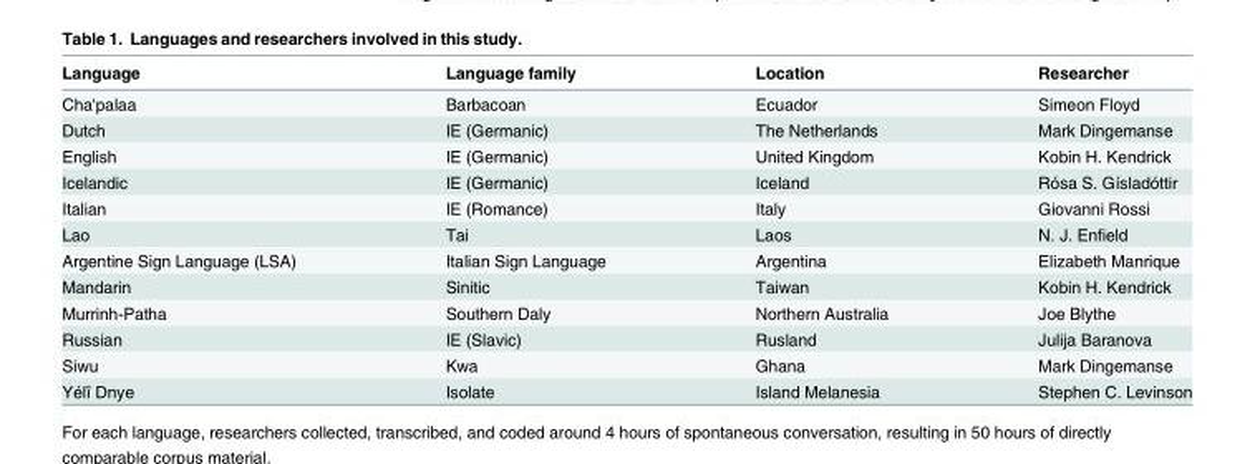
<table><thead><tr><td>Language</td><td>Language family</td><td>Location</td><td>Researcher</td></tr></thead><tbody><tr><td>Cha&#x27;palaa</td><td>Barbacoan</td><td>Ecuador</td><td>Simeon Floyd</td></tr><tr><td>Dutch</td><td>IE (Germanic)</td><td>The Netherlands</td><td>Mark Dingemanse</td></tr><tr><td>English</td><td>IE (Germanic)</td><td>United Kingdom</td><td>Kobin H. Kendrick</td></tr><tr><td>Icelandic</td><td>IE (Germanic)</td><td>Iceland</td><td>Rósa S. Gísladóttir</td></tr><tr><td>Italian</td><td>IE (Romance)</td><td>Italy</td><td>Giovanni Rossi</td></tr><tr><td>Lao</td><td>Tai</td><td>Laos</td><td>N. J. Enfield</td></tr><tr><td>Argentine Sign Language (LSA)</td><td>Italian Sign Language</td><td>Argentina</td><td>Elizabeth Manrique</td></tr><tr><td>Mandarin</td><td>Sinitic</td><td>Taiwan</td><td>Kobin H. Kendrick</td></tr><tr><td>Murrinh-Patha</td><td>Southern Daly</td><td>Northern Australia</td><td>Joe Blythe</td></tr><tr><td>Russian</td><td>IE (Slavic)</td><td>Rusland</td><td>Julija Baranova</td></tr><tr><td>Siwu</td><td>Kwa</td><td>Ghana</td><td>Mark Dingemanse</td></tr><tr><td>Yélî Dnye</td><td>Isolate</td><td>Island Melanesia</td><td>Stephen C. Levinson</td></tr></tbody></table>